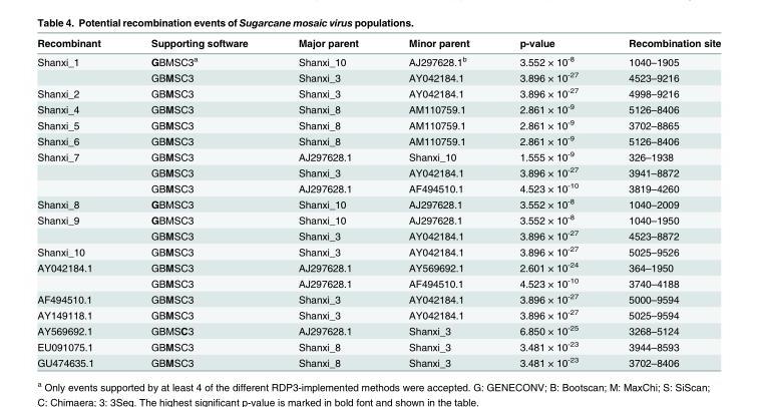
<table><thead><tr><td>Recombinant</td><td>Supporting software</td><td>Major parent</td><td>Minor parent</td><td>p-value</td><td>Recombination site</td></tr></thead><tbody><tr><td rowspan="2">Shanxi_1</td><td>GBMSC3<sup>a</sup></td><td>Shanxi_10</td><td>AJ297628.1<sup>b</sup></td><td>3.552 × 10<sup>-8</sup></td><td>1040–1905</td></tr><tr><td>GBMSC3</td><td>Shanxi_3</td><td>AY042184.1</td><td>3.896 × 10<sup>-27</sup></td><td>4523–9216</td></tr><tr><td>Shanxi_2</td><td>GBMSC3</td><td>Shanxi_3</td><td>AY042184.1</td><td>3.896 × 10<sup>-27</sup></td><td>4998–9216</td></tr><tr><td>Shanxi_4</td><td>GBMSC3</td><td>Shanxi_8</td><td>AM110759.1</td><td>2.861 × 10<sup>-9</sup></td><td>5126–8406</td></tr><tr><td>Shanxi_5</td><td>GBMSC3</td><td>Shanxi_8</td><td>AM110759.1</td><td>2.861 × 10<sup>-9</sup></td><td>3702–8865</td></tr><tr><td>Shanxi_6</td><td>GBMSC3</td><td>Shanxi_8</td><td>AM110759.1</td><td>2.861 × 10<sup>-9</sup></td><td>5126–8406</td></tr><tr><td rowspan="3">Shanxi_7</td><td>GBMSC3</td><td>AJ297628.1</td><td>Shanxi_10</td><td>1.555 × 10<sup>-9</sup></td><td>326–1938</td></tr><tr><td>GBMSC3</td><td>Shanxi_3</td><td>AY042184.1</td><td>3.896 × 10<sup>-27</sup></td><td>3941–8872</td></tr><tr><td>GBMSC3</td><td>AJ297628.1</td><td>AF494510.1</td><td>4.523 × 10<sup>-10</sup></td><td>3819–4260</td></tr><tr><td>Shanxi_8</td><td>GBMSC3</td><td>Shanxi_10</td><td>AJ297628.1</td><td>3.552 × 10<sup>-8</sup></td><td>1040–2009</td></tr><tr><td rowspan="2">Shanxi_9</td><td>GBMSC3</td><td>Shanxi_10</td><td>AJ297628.1</td><td>3.552 × 10<sup>-8</sup></td><td>1040–1950</td></tr><tr><td>GBMSC3</td><td>Shanxi_3</td><td>AY042184.1</td><td>3.896 × 10<sup>-27</sup></td><td>4523–8872</td></tr><tr><td>Shanxi_10</td><td>GBMSC3</td><td>Shanxi_3</td><td>AY042184.1</td><td>3.896 × 10<sup>-27</sup></td><td>5025–9526</td></tr><tr><td rowspan="2">AY042184.1</td><td>GBMSC3</td><td>AJ297628.1</td><td>AY569692.1</td><td>2.601 × 10<sup>-24</sup></td><td>364–1950</td></tr><tr><td>GBMSC3</td><td>AJ297628.1</td><td>AF494510.1</td><td>4.523 × 10<sup>-10</sup></td><td>3740–4188</td></tr><tr><td>AF494510.1</td><td>GBMSC3</td><td>Shanxi_3</td><td>AY042184.1</td><td>3.896 × 10<sup>-27</sup></td><td>5000–9594</td></tr><tr><td>AY149118.1</td><td>GBMSC3</td><td>Shanxi_3</td><td>AY042184.1</td><td>3.896 × 10<sup>-27</sup></td><td>5025–9594</td></tr><tr><td>AY569692.1</td><td>GBMSC3</td><td>AJ297628.1</td><td>Shanxi_3</td><td>6.850 × 10<sup>-25</sup></td><td>3268–5124</td></tr><tr><td>EU091075.1</td><td>GBMSC3</td><td>Shanxi_8</td><td>Shanxi_3</td><td>3.481 × 10<sup>-23</sup></td><td>3944–8593</td></tr><tr><td>GU474635.1</td><td>GBMSC3</td><td>Shanxi_8</td><td>Shanxi_3</td><td>3.481 × 10<sup>-23</sup></td><td>3702–8406</td></tr></tbody></table>